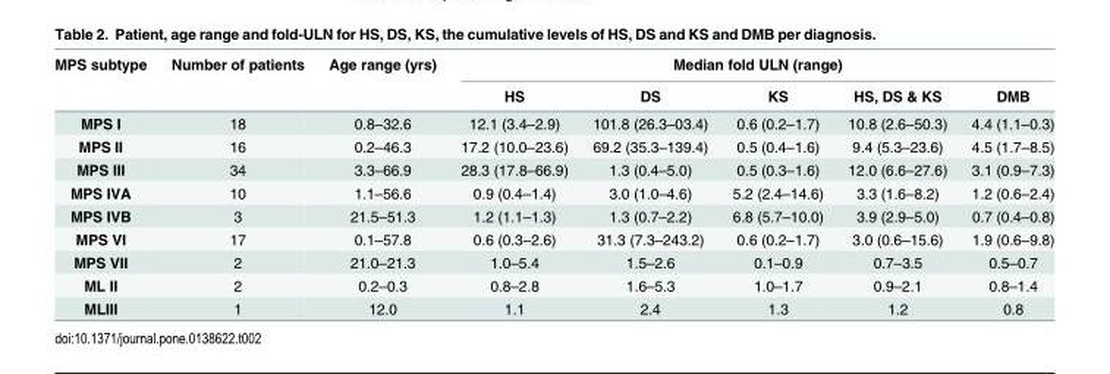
<table><thead><tr><td rowspan="2">MPS subtype</td><td rowspan="2">Number of patients</td><td rowspan="2">Age range (yrs)</td><td colspan="5">Median fold ULN (range)</td></tr><tr><td>HS</td><td>DS</td><td>KS</td><td>HS, DS &amp; KS</td><td>DMB</td></tr></thead><tbody><tr><td>MPS I</td><td>18</td><td>0.8–32.6</td><td>12.1 (3.4–2.9)</td><td>101.8 (26.3–03.4)</td><td>0.6 (0.2–1.7)</td><td>10.8 (2.6–50.3)</td><td>4.4 (1.1–0.3)</td></tr><tr><td>MPS II</td><td>16</td><td>0.2–46.3</td><td>17.2 (10.0–23.6)</td><td>69.2 (35.3–139.4)</td><td>0.5 (0.4–1.6)</td><td>9.4 (5.3–23.6)</td><td>4.5 (1.7–8.5)</td></tr><tr><td>MPS III</td><td>34</td><td>3.3–66.9</td><td>28.3 (17.8–66.9)</td><td>1.3 (0.4–5.0)</td><td>0.5 (0.3–1.6)</td><td>12.0 (6.6–27.6)</td><td>3.1 (0.9–7.3)</td></tr><tr><td>MPS IVA</td><td>10</td><td>1.1–56.6</td><td>0.9 (0.4–1.4)</td><td>3.0 (1.0–4.6)</td><td>5.2 (2.4–14.6)</td><td>3.3 (1.6–8.2)</td><td>1.2 (0.6–2.4)</td></tr><tr><td>MPS IVB</td><td>3</td><td>21.5–51.3</td><td>1.2 (1.1–1.3)</td><td>1.3 (0.7–2.2)</td><td>6.8 (5.7–10.0)</td><td>3.9 (2.9–5.0)</td><td>0.7 (0.4–0.8)</td></tr><tr><td>MPS VI</td><td>17</td><td>0.1–57.8</td><td>0.6 (0.3–2.6)</td><td>31.3 (7.3–243.2)</td><td>0.6 (0.2–1.7)</td><td>3.0 (0.6–15.6)</td><td>1.9 (0.6–9.8)</td></tr><tr><td>MPS VII</td><td>2</td><td>21.0–21.3</td><td>1.0–5.4</td><td>1.5–2.6</td><td>0.1–0.9</td><td>0.7–3.5</td><td>0.5–0.7</td></tr><tr><td>ML II</td><td>2</td><td>0.2–0.3</td><td>0.8–2.8</td><td>1.6–5.3</td><td>1.0–1.7</td><td>0.9–2.1</td><td>0.8–1.4</td></tr><tr><td>MLIII</td><td>1</td><td>12.0</td><td>1.1</td><td>2.4</td><td>1.3</td><td>1.2</td><td>0.8</td></tr></tbody></table>